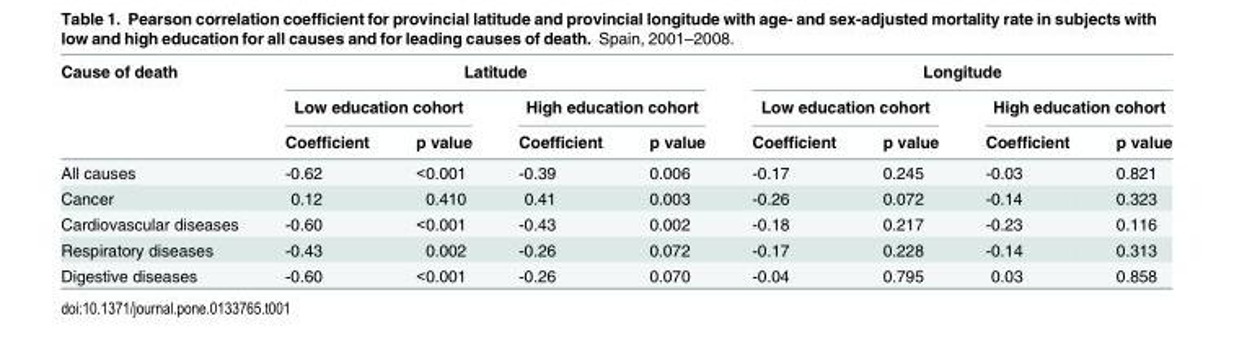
<table><thead><tr><td rowspan="3">Cause of death</td><td colspan="4">Latitude</td><td colspan="4">Longitude</td></tr><tr><td colspan="2">Low education cohort</td><td colspan="2">High education cohort</td><td colspan="2">Low education cohort</td><td colspan="2">High education cohort</td></tr><tr><td>Coefficient</td><td>p value</td><td>Coefficient</td><td>p value</td><td>Coefficient</td><td>p value</td><td>Coefficient</td><td>p value</td></tr></thead><tbody><tr><td>All causes</td><td>-0.62</td><td>&lt;0.001</td><td>-0.39</td><td>0.006</td><td>-0.17</td><td>0.245</td><td>-0.03</td><td>0.821</td></tr><tr><td>Cancer</td><td>0.12</td><td>0.410</td><td>0.41</td><td>0.003</td><td>-0.26</td><td>0.072</td><td>-0.14</td><td>0.323</td></tr><tr><td>Cardiovascular diseases</td><td>-0.60</td><td>&lt;0.001</td><td>-0.43</td><td>0.002</td><td>-0.18</td><td>0.217</td><td>-0.23</td><td>0.116</td></tr><tr><td>Respiratory diseases</td><td>-0.43</td><td>0.002</td><td>-0.26</td><td>0.072</td><td>-0.17</td><td>0.228</td><td>-0.14</td><td>0.313</td></tr><tr><td>Digestive diseases</td><td>-0.60</td><td>&lt;0.001</td><td>-0.26</td><td>0.070</td><td>-0.04</td><td>0.795</td><td>0.03</td><td>0.858</td></tr></tbody></table>